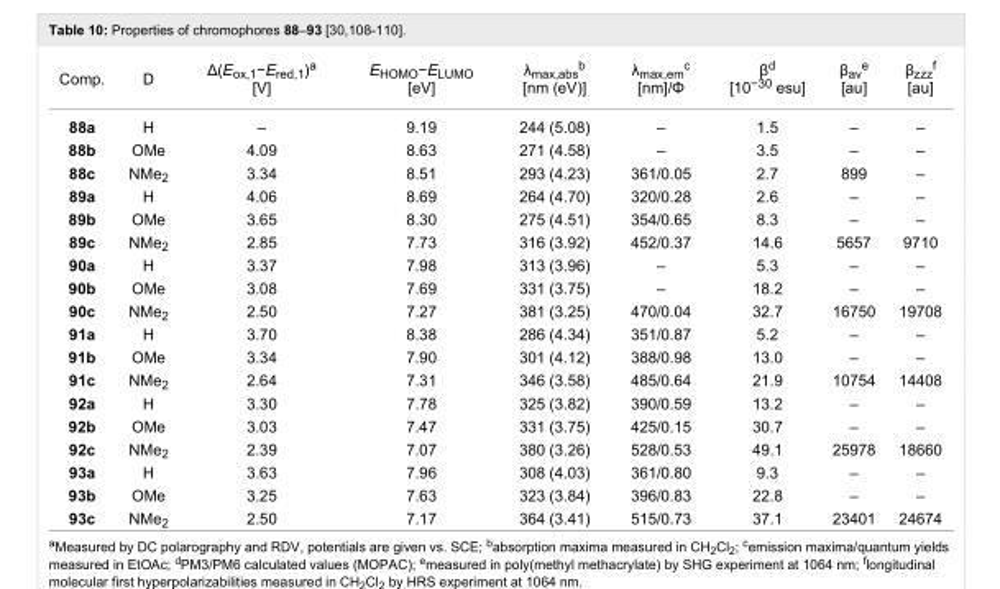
<table><tbody><tr><td>Comp.</td><td>D</td><td>Δ(E<sub>ox,1</sub>−E<sub>red,1</sub>)<sup>a</sup> [V]</td><td>E<sub>HOMO</sub>−E<sub>LUMO</sub> [eV]</td><td>λ<sub>max,abs</sub><sup>b</sup> [nm (eV)]</td><td>λ<sub>max,em</sub><sup>c</sup> [nm]/Φ</td><td>β<sup>d</sup> [10<sup>−30</sup> esu]</td><td>β<sub>av</sub><sup>e</sup> [au]</td><td>β<sub>zzz</sub><sup>f</sup> [au]</td></tr><tr><td>88a</td><td>H</td><td>–</td><td>9.19</td><td>244 (5.08)</td><td>–</td><td>1.5</td><td>–</td><td>–</td></tr><tr><td>88b</td><td>OMe</td><td>4.09</td><td>8.63</td><td>271 (4.58)</td><td>–</td><td>3.5</td><td>–</td><td>–</td></tr><tr><td>88c</td><td>NMe<sub>2</sub></td><td>3.34</td><td>8.51</td><td>293 (4.23)</td><td>361/0.05</td><td>2.7</td><td>899</td><td>–</td></tr><tr><td>89a</td><td>H</td><td>4.06</td><td>8.69</td><td>264 (4.70)</td><td>320/0.28</td><td>2.6</td><td>–</td><td>–</td></tr><tr><td>89b</td><td>OMe</td><td>3.65</td><td>8.30</td><td>275 (4.51)</td><td>354/0.65</td><td>8.3</td><td>–</td><td>–</td></tr><tr><td>89c</td><td>NMe<sub>2</sub></td><td>2.85</td><td>7.73</td><td>316 (3.92)</td><td>452/0.37</td><td>14.6</td><td>5657</td><td>9710</td></tr><tr><td>90a</td><td>H</td><td>3.37</td><td>7.98</td><td>313 (3.96)</td><td>–</td><td>5.3</td><td>–</td><td>–</td></tr><tr><td>90b</td><td>OMe</td><td>3.08</td><td>7.69</td><td>331 (3.75)</td><td>–</td><td>18.2</td><td>–</td><td>–</td></tr><tr><td>90c</td><td>NMe<sub>2</sub></td><td>2.50</td><td>7.27</td><td>381 (3.25)</td><td>470/0.04</td><td>32.7</td><td>16750</td><td>19708</td></tr><tr><td>91a</td><td>H</td><td>3.70</td><td>8.38</td><td>286 (4.34)</td><td>351/0.87</td><td>5.2</td><td>–</td><td>–</td></tr><tr><td>91b</td><td>OMe</td><td>3.34</td><td>7.90</td><td>301 (4.12)</td><td>388/0.98</td><td>13.0</td><td>–</td><td>–</td></tr><tr><td>91c</td><td>NMe<sub>2</sub></td><td>2.64</td><td>7.31</td><td>346 (3.58)</td><td>485/0.64</td><td>21.9</td><td>10754</td><td>14408</td></tr><tr><td>92a</td><td>H</td><td>3.30</td><td>7.78</td><td>325 (3.82)</td><td>390/0.59</td><td>13.2</td><td>–</td><td>–</td></tr><tr><td>92b</td><td>OMe</td><td>3.03</td><td>7.47</td><td>331 (3.75)</td><td>425/0.15</td><td>30.7</td><td>–</td><td>–</td></tr><tr><td>92c</td><td>NMe<sub>2</sub></td><td>2.39</td><td>7.07</td><td>380 (3.26)</td><td>528/0.53</td><td>49.1</td><td>25978</td><td>18660</td></tr><tr><td>93a</td><td>H</td><td>3.63</td><td>7.96</td><td>308 (4.03)</td><td>361/0.80</td><td>9.3</td><td>–</td><td>–</td></tr><tr><td>93b</td><td>OMe</td><td>3.25</td><td>7.63</td><td>323 (3.84)</td><td>396/0.83</td><td>22.8</td><td>–</td><td>–</td></tr><tr><td>93c</td><td>NMe<sub>2</sub></td><td>2.50</td><td>7.17</td><td>364 (3.41)</td><td>515/0.73</td><td>37.1</td><td>23401</td><td>24674</td></tr></tbody></table>